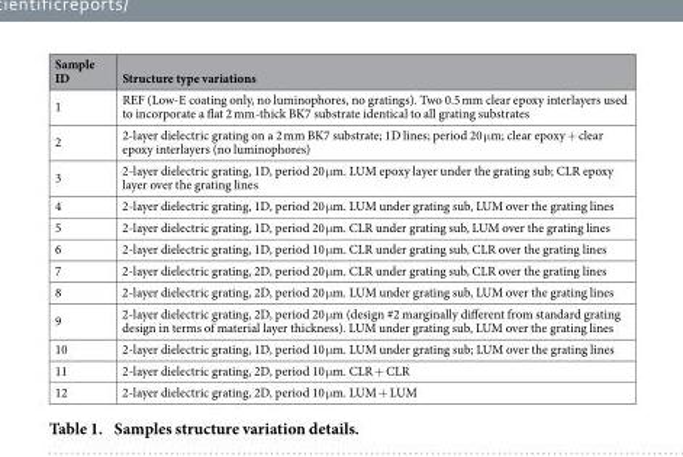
<table><thead><tr><td>Sample ID</td><td>Structure type variations</td></tr></thead><tbody><tr><td>1</td><td>REF (Low-E coating only, no luminophores, no gratings). Two 0.5 mm clear epoxy interlayers used to incorporate a flat 2 mm-thick BK7 substrate identical to all grating substrates</td></tr><tr><td>2</td><td>2-layer dielectric grating on a 2 mm BK7 substrate; 1D lines; period 20 μ m; clear epoxy + clear epoxy interlayers (no luminophores)</td></tr><tr><td>3</td><td>2-layer dielectric grating, 1D, period 20 μ m. LUM epoxy layer under the grating sub; CLR epoxy layer over the grating lines</td></tr><tr><td>4</td><td>2-layer dielectric grating, 1D, period 20 μ m. LUM under grating sub, LUM over the grating lines</td></tr><tr><td>5</td><td>2-layer dielectric grating, 1D, period 20 μ m. CLR under grating sub, LUM over the grating lines</td></tr><tr><td>6</td><td>2-layer dielectric grating, 1D, period 10 μ m. CLR under grating sub, CLR over the grating lines</td></tr><tr><td>7</td><td>2-layer dielectric grating, 2D, period 20 μ m. CLR under grating sub, CLR over the grating lines</td></tr><tr><td>8</td><td>2-layer dielectric grating, 2D, period 20 μ m. LUM under grating sub, LUM over the grating lines</td></tr><tr><td>9</td><td>2-layer dielectric grating, 2D, period 20 μ m (design #2 marginally different from standard grating design in terms of material layer thickness). LUM under grating sub, LUM over the grating lines</td></tr><tr><td>10</td><td>2-layer dielectric grating, 1D, period 10 μ m. LUM under grating sub; LUM over the grating lines</td></tr><tr><td>11</td><td>2-layer dielectric grating, 2D, period 10 μ m. CLR + CLR</td></tr><tr><td>12</td><td>2-layer dielectric grating, 2D, period 10 μ m. LUM + LUM</td></tr></tbody></table>